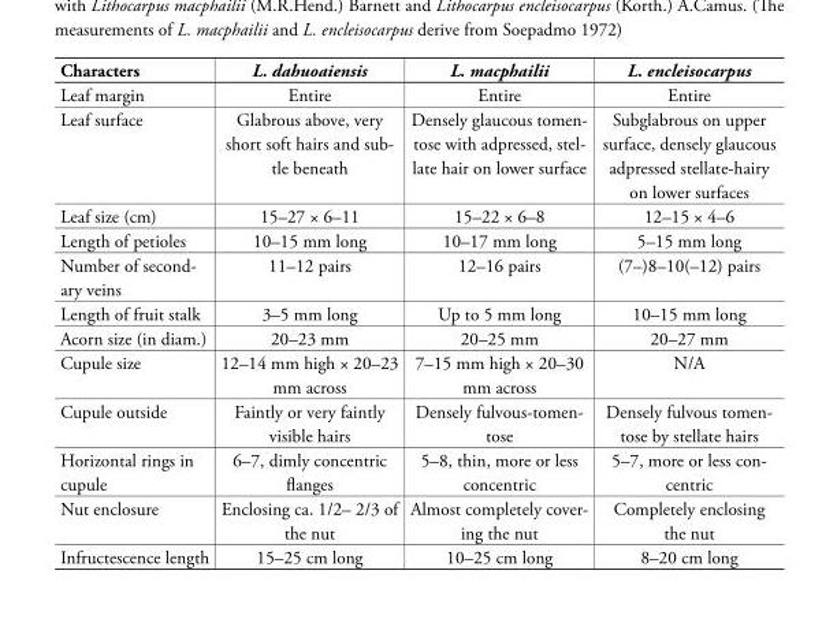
<table><thead><tr><td>Characters</td><td>L. dahuoaiensis</td><td>L. macphailii</td><td>L. encleisocarpus</td></tr></thead><tbody><tr><td>Leaf margin</td><td>Entire</td><td>Entire</td><td>Entire</td></tr><tr><td>Leaf surface</td><td>Glabrous above, very short soft hairs and sub- tle beneath</td><td>Densely glaucous tomen- tose with adpressed, stel- late hair on lower surface</td><td>Subglabrous on upper surface, densely glaucous adpressed stellate-hairy on lower surfaces</td></tr><tr><td>Leaf size (cm)</td><td>15–27 × 6–11</td><td>15–22 × 6–8</td><td>12–15 × 4–6</td></tr><tr><td>Length of petioles</td><td>10–15 mm long</td><td>10–17 mm long</td><td>5–15 mm long</td></tr><tr><td>Number of second- ary veins</td><td>11–12 pairs</td><td>12–16 pairs</td><td>(7–)8–10(–12) pairs</td></tr><tr><td>Length of fruit stalk</td><td>3–5 mm long</td><td>Up to 5 mm long</td><td>10–15 mm long</td></tr><tr><td>Acorn size (in diam.)</td><td>20–23 mm</td><td>20–25 mm</td><td>20–27 mm</td></tr><tr><td>Cupule size</td><td>12–14 mm high × 20–23 mm across</td><td>7–15 mm high × 20–30 mm across</td><td>N/A</td></tr><tr><td>Cupule outside</td><td>Faintly or very faintly visible hairs</td><td>Densely fulvous-tomen- tose</td><td>Densely fulvous tomen- tose by stellate hairs</td></tr><tr><td>Horizontal rings in cupule</td><td>6–7, dimly concentric fl anges</td><td>5–8, thin, more or less concentric</td><td>5–7, more or less con- centric</td></tr><tr><td>Nut enclosure</td><td>Enclosing ca. 1/2– 2/3 of the nut</td><td>Almost completely cover- ing the nut</td><td>Completely enclosing the nut</td></tr><tr><td>Infructescence length</td><td>15–25 cm long</td><td>10–25 cm long</td><td>8–20 cm long</td></tr></tbody></table>